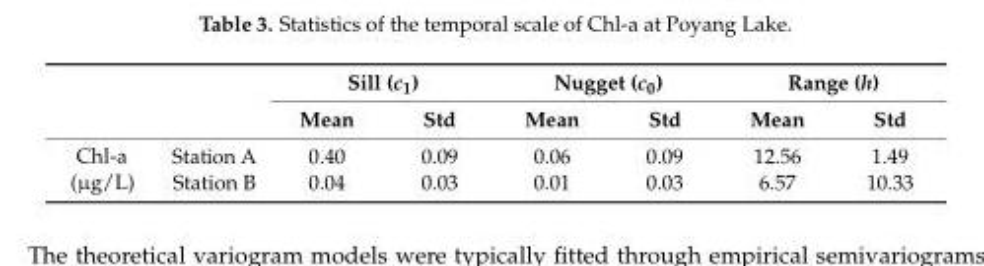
<table><thead><tr><td rowspan="2"></td><td rowspan="2"></td><td colspan="2">Sill (c<sub>1</sub>)</td><td colspan="2">Nugget (c<sub>0</sub>)</td><td colspan="2">Range (h)</td></tr><tr><td>Mean</td><td>Std</td><td>Mean</td><td>Std</td><td>Mean</td><td>Std</td></tr></thead><tbody><tr><td rowspan="2">Chl-a (µg/L)</td><td>Station A</td><td>0.40</td><td>0.09</td><td>0.06</td><td>0.09</td><td>12.56</td><td>1.49</td></tr><tr><td>Station B</td><td>0.04</td><td>0.03</td><td>0.01</td><td>0.03</td><td>6.57</td><td>10.33</td></tr></tbody></table>